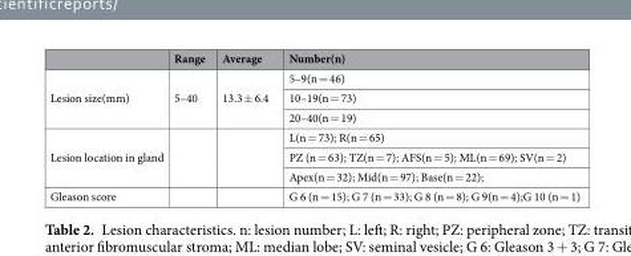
<table><thead><tr><td></td><td>Range</td><td>Average</td><td>Number(n)</td></tr></thead><tbody><tr><td rowspan="3">Lesion size(mm)</td><td rowspan="3">5–40</td><td rowspan="3">13.3 ± 6.4</td><td>5–9(n = 46)</td></tr><tr><td>10–19(n = 73)</td></tr><tr><td>20–40(n = 19)</td></tr><tr><td rowspan="3">Lesion location in gland</td><td rowspan="3"></td><td rowspan="3"></td><td>L(n = 73); R(n = 65)</td></tr><tr><td>PZ (n = 63); TZ(n = 7); AFS(n = 5); ML(n = 69); SV(n = 2)</td></tr><tr><td>Apex(n = 32); Mid(n = 97); Base(n = 22);</td></tr><tr><td>Gleason score</td><td></td><td></td><td>G 6 (n = 15); G 7 (n = 33); G 8 (n = 8); G 9(n = 4);G 10 (n = 1)</td></tr></tbody></table>